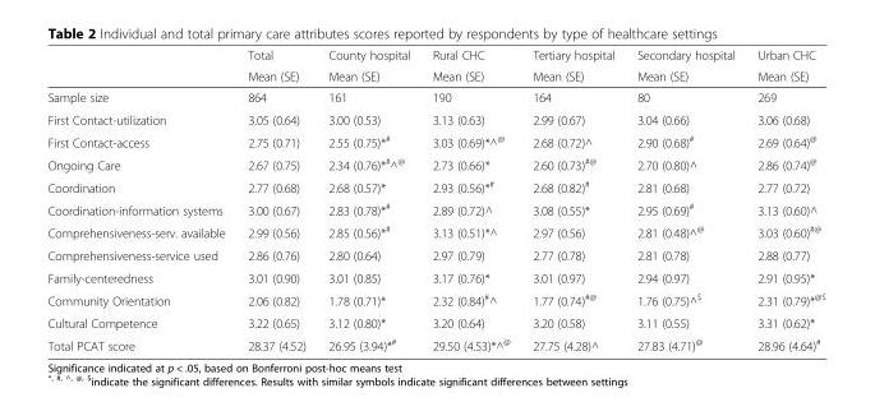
<table><thead><tr><td rowspan="2"></td><td rowspan="2">Total Mean (SE)</td><td rowspan="2">County hospital Mean (SE)</td><td rowspan="2">Rural CHC Mean (SE)</td><td rowspan="2">Tertiary hospital Mean (SE)</td><td rowspan="2">Secondary hospital Mean (SE)</td><td rowspan="2">Urban CHC Mean (SE)</td></tr><tr></tr></thead><tbody><tr><td>Sample size</td><td>864</td><td>161</td><td>190</td><td>164</td><td>80</td><td>269</td></tr><tr><td>First Contact-utilization</td><td>3.05 (0.64)</td><td>3.00 (0.53)</td><td>3.13 (0.63)</td><td>2.99 (0.67)</td><td>3.04 (0.66)</td><td>3.06 (0.68)</td></tr><tr><td>First Contact-access</td><td>2.75 (0.71)</td><td>2.55 (0.75)*<sup>#</sup></td><td>3.03 (0.69)*^@</td><td>2.68 (0.72)^</td><td>2.90 (0.68)<sup>#</sup></td><td>2.69 (0.64)<sup>@</sup></td></tr><tr><td>Ongoing Care</td><td>2.67 (0.75)</td><td>2.34 (0.76)*#^@</td><td>2.73 (0.66)*</td><td>2.60 (0.73)<sup>#@</sup></td><td>2.70 (0.80)^</td><td>2.86 (0.74)<sup>@</sup></td></tr><tr><td>Coordination</td><td>2.77 (0.68)</td><td>2.68 (0.57)*</td><td>2.93 (0.56)*<sup>#</sup></td><td>2.68 (0.82)<sup>#</sup></td><td>2.81 (0.68)</td><td>2.77 (0.72)</td></tr><tr><td>Coordination-information systems</td><td>3.00 (0.67)</td><td>2.83 (0.78)*<sup>#</sup></td><td>2.89 (0.72)^</td><td>3.08 (0.55)*</td><td>2.95 (0.69)<sup>#</sup></td><td>3.13 (0.60)^</td></tr><tr><td>Comprehensiveness-serv. available</td><td>2.99 (0.56)</td><td>2.85 (0.56)*<sup>#</sup></td><td>3.13 (0.51)*^</td><td>2.97 (0.56)</td><td>2.81 (0.48)^@</td><td>3.03 (0.60)<sup>#@</sup></td></tr><tr><td>Comprehensiveness-service used</td><td>2.86 (0.76)</td><td>2.80 (0.64)</td><td>2.97 (0.79)</td><td>2.77 (0.78)</td><td>2.81 (0.78)</td><td>2.88 (0.77)</td></tr><tr><td>Family-centeredness</td><td>3.01 (0.90)</td><td>3.01 (0.85)</td><td>3.17 (0.76)*</td><td>3.01 (0.97)</td><td>2.94 (0.97)</td><td>2.91 (0.95)*</td></tr><tr><td>Community Orientation</td><td>2.06 (0.82)</td><td>1.78 (0.71)*</td><td>2.32 (0.84)#^</td><td>1.77 (0.74)<sup>#@</sup></td><td>1.76 (0.75)^$</td><td>2.31 (0.79)*<sup>@$</sup></td></tr><tr><td>Cultural Competence</td><td>3.22 (0.65)</td><td>3.12 (0.80)*</td><td>3.20 (0.64)</td><td>3.20 (0.58)</td><td>3.11 (0.55)</td><td>3.31 (0.62)*</td></tr><tr><td>Total PCAT score</td><td>28.37 (4.52)</td><td>26.95 (3.94)*<sup>#</sup></td><td>29.50 (4.53)*^@</td><td>27.75 (4.28)^</td><td>27.83 (4.71)<sup>@</sup></td><td>28.96 (4.64)<sup>#</sup></td></tr></tbody></table>